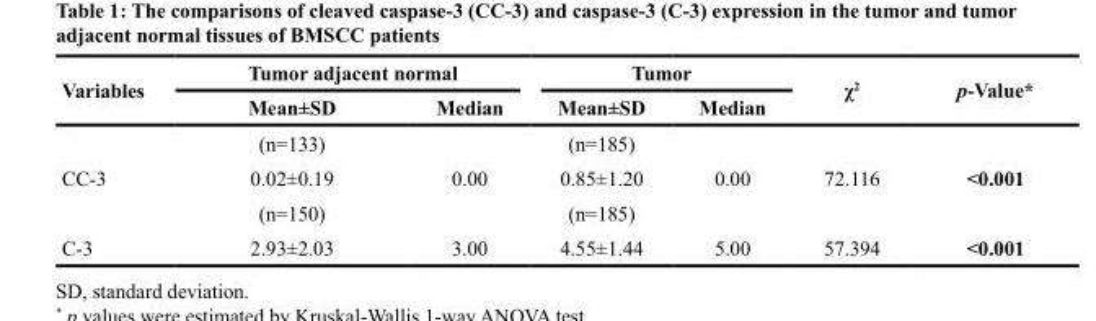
<table><thead><tr><td rowspan="2">Variables</td><td colspan="2">Tumor adjacent normal</td><td colspan="2">Tumor</td><td rowspan="2">χ<sup>2</sup></td><td rowspan="2">p-Value*</td></tr><tr><td>Mean±SD</td><td>Median</td><td>Mean±SD</td><td>Median</td></tr></thead><tbody><tr><td></td><td>(n=133)</td><td></td><td>(n=185)</td><td></td><td></td><td></td></tr><tr><td rowspan="2">CC-3</td><td>0.02±0.19</td><td>0.00</td><td>0.85±1.20</td><td>0.00</td><td>72.116</td><td>&lt;0.001</td></tr><tr><td>(n=150)</td><td></td><td>(n=185)</td><td></td><td></td><td></td></tr><tr><td>C-3</td><td>2.93±2.03</td><td>3.00</td><td>4.55±1.44</td><td>5.00</td><td>57.394</td><td>&lt;0.001</td></tr></tbody></table>